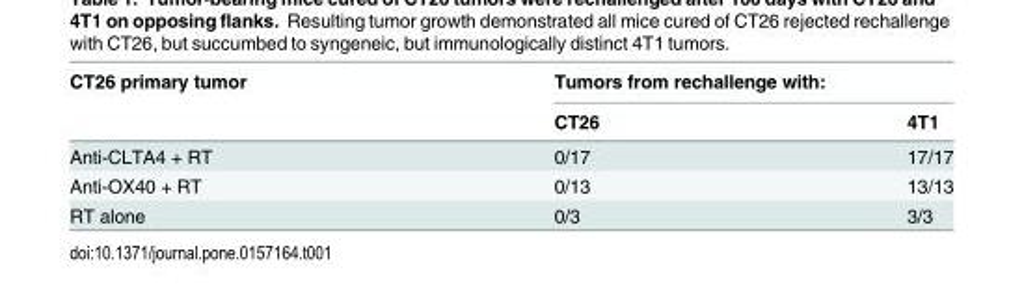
<table><thead><tr><td rowspan="2">CT26 primary tumor</td><td colspan="2">Tumors from rechallenge with:</td></tr><tr><td>CT26</td><td>4T1</td></tr></thead><tbody><tr><td>Anti-CLTA4 + RT</td><td>0/17</td><td>17/17</td></tr><tr><td>Anti-OX40 + RT</td><td>0/13</td><td>13/13</td></tr><tr><td>RT alone</td><td>0/3</td><td>3/3</td></tr></tbody></table>